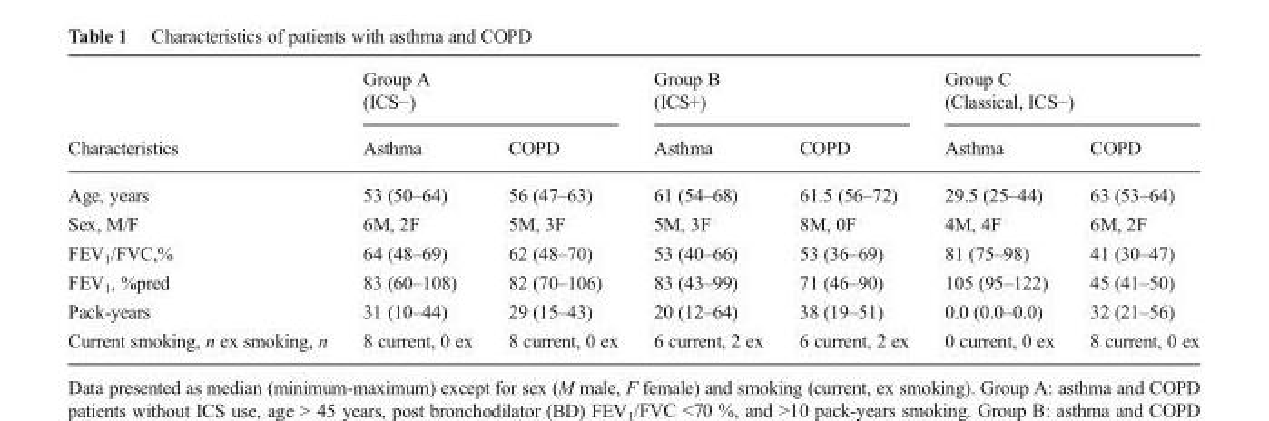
<table><thead><tr><td rowspan="2">Characteristics</td><td colspan="2">Group A (ICS−)</td><td colspan="2">Group B (ICS+)</td><td colspan="2">Group C (Classical, ICS−)</td></tr><tr><td>Asthma</td><td>COPD</td><td>Asthma</td><td>COPD</td><td>Asthma</td><td>COPD</td></tr></thead><tbody><tr><td>Age, years</td><td>53 (50–64)</td><td>56 (47–63)</td><td>61 (54–68)</td><td>61.5 (56–72)</td><td>29.5 (25–44)</td><td>63 (53–64)</td></tr><tr><td>Sex, M/F</td><td>6M, 2F</td><td>5M, 3F</td><td>5M, 3F</td><td>8M, 0F</td><td>4M, 4F</td><td>6M, 2F</td></tr><tr><td>FEV<sub>1</sub>/FVC,%</td><td>64 (48–69)</td><td>62 (48–70)</td><td>53 (40–66)</td><td>53 (36–69)</td><td>81 (75–98)</td><td>41 (30–47)</td></tr><tr><td>FEV<sub>1</sub>, %pred</td><td>83 (60–108)</td><td>82 (70–106)</td><td>83 (43–99)</td><td>71 (46–90)</td><td>105 (95–122)</td><td>45 (41–50)</td></tr><tr><td>Pack-years</td><td>31 (10–44)</td><td>29 (15–43)</td><td>20 (12–64)</td><td>38 (19–51)</td><td>0.0 (0.0–0.0)</td><td>32 (21–56)</td></tr><tr><td>Current smoking, n ex smoking, n</td><td>8 current, 0 ex</td><td>8 current, 0 ex</td><td>6 current, 2 ex</td><td>6 current, 2 ex</td><td>0 current, 0 ex</td><td>8 current, 0 ex</td></tr></tbody></table>